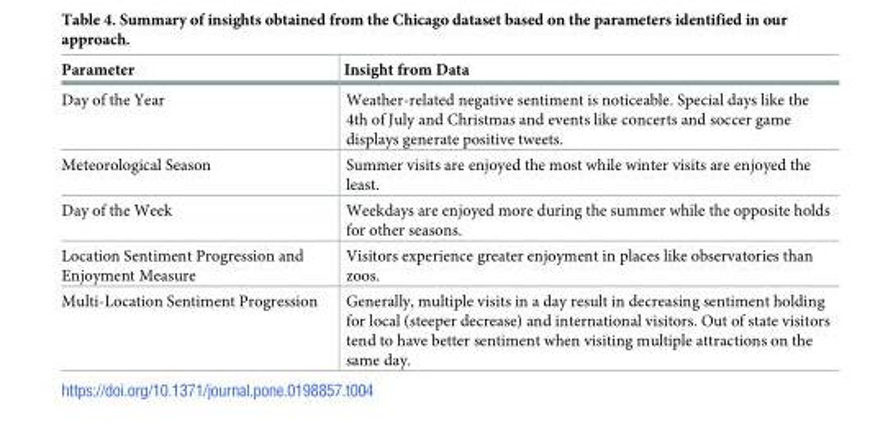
<table><thead><tr><td>Parameter</td><td>Insight from Data</td></tr></thead><tbody><tr><td>Day of the Year</td><td>Weather-related negative sentiment is noticeable. Special days like the 4th of July and Christmas and events like concerts and soccer game displays generate positive tweets.</td></tr><tr><td>Meteorological Season</td><td>Summer visits are enjoyed the most while winter visits are enjoyed the least.</td></tr><tr><td>Day of the Week</td><td>Weekdays are enjoyed more during the summer while the opposite holds for other seasons.</td></tr><tr><td>Location Sentiment Progression and Enjoyment Measure</td><td>Visitors experience greater enjoyment in places like observatories than zoos.</td></tr><tr><td>Multi-Location Sentiment Progression</td><td>Generally, multiple visits in a day result in decreasing sentiment holding for local (steeper decrease) and international visitors. Out of state visitors tend to have better sentiment when visiting multiple attractions on the same day.</td></tr></tbody></table>